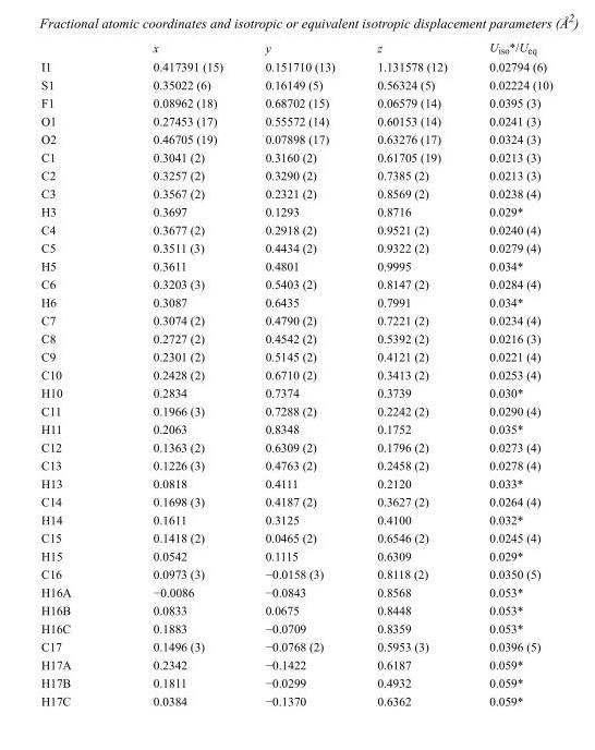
<table><thead><tr><td></td><td>x</td><td>y</td><td>z</td><td>U<sub>iso</sub>*/U<sub>eq</sub></td></tr></thead><tbody><tr><td>I1</td><td>0.417391 (15)</td><td>0.151710 (13)</td><td>1.131578 (12)</td><td>0.02794 (6)</td></tr><tr><td>S1</td><td>0.35022 (6)</td><td>0.16149 (5)</td><td>0.56324 (5)</td><td>0.02224 (10)</td></tr><tr><td>F1</td><td>0.08962 (18)</td><td>0.68702 (15)</td><td>0.06579 (14)</td><td>0.0395 (3)</td></tr><tr><td>O1</td><td>0.27453 (17)</td><td>0.55572 (14)</td><td>0.60153 (14)</td><td>0.0241 (3)</td></tr><tr><td>O2</td><td>0.46705 (19)</td><td>0.07898 (17)</td><td>0.63276 (17)</td><td>0.0324 (3)</td></tr><tr><td>C1</td><td>0.3041 (2)</td><td>0.3160 (2)</td><td>0.61705 (19)</td><td>0.0213 (3)</td></tr><tr><td>C2</td><td>0.3257 (2)</td><td>0.3290 (2)</td><td>0.7385 (2)</td><td>0.0213 (3)</td></tr><tr><td>C3</td><td>0.3567 (2)</td><td>0.2321 (2)</td><td>0.8569 (2)</td><td>0.0238 (4)</td></tr><tr><td>H3</td><td>0.3697</td><td>0.1293</td><td>0.8716</td><td>0.029*</td></tr><tr><td>C4</td><td>0.3677 (2)</td><td>0.2918 (2)</td><td>0.9521 (2)</td><td>0.0240 (4)</td></tr><tr><td>C5</td><td>0.3511 (3)</td><td>0.4434 (2)</td><td>0.9322 (2)</td><td>0.0279 (4)</td></tr><tr><td>H5</td><td>0.3611</td><td>0.4801</td><td>0.9995</td><td>0.034*</td></tr><tr><td>C6</td><td>0.3203 (3)</td><td>0.5403 (2)</td><td>0.8147 (2)</td><td>0.0284 (4)</td></tr><tr><td>H6</td><td>0.3087</td><td>0.6435</td><td>0.7991</td><td>0.034*</td></tr><tr><td>C7</td><td>0.3074 (2)</td><td>0.4790 (2)</td><td>0.7221 (2)</td><td>0.0234 (4)</td></tr><tr><td>C8</td><td>0.2727 (2)</td><td>0.4542 (2)</td><td>0.5392 (2)</td><td>0.0216 (3)</td></tr><tr><td>C9</td><td>0.2301 (2)</td><td>0.5145 (2)</td><td>0.4121 (2)</td><td>0.0221 (4)</td></tr><tr><td>C10</td><td>0.2428 (2)</td><td>0.6710 (2)</td><td>0.3413 (2)</td><td>0.0253 (4)</td></tr><tr><td>H10</td><td>0.2834</td><td>0.7374</td><td>0.3739</td><td>0.030*</td></tr><tr><td>C11</td><td>0.1966 (3)</td><td>0.7288 (2)</td><td>0.2242 (2)</td><td>0.0290 (4)</td></tr><tr><td>H11</td><td>0.2063</td><td>0.8348</td><td>0.1752</td><td>0.035*</td></tr><tr><td>C12</td><td>0.1363 (2)</td><td>0.6309 (2)</td><td>0.1796 (2)</td><td>0.0273 (4)</td></tr><tr><td>C13</td><td>0.1226 (3)</td><td>0.4763 (2)</td><td>0.2458 (2)</td><td>0.0278 (4)</td></tr><tr><td>H13</td><td>0.0818</td><td>0.4111</td><td>0.2120</td><td>0.033*</td></tr><tr><td>C14</td><td>0.1698 (3)</td><td>0.4187 (2)</td><td>0.3627 (2)</td><td>0.0264 (4)</td></tr><tr><td>H14</td><td>0.1611</td><td>0.3125</td><td>0.4100</td><td>0.032*</td></tr><tr><td>C15</td><td>0.1418 (2)</td><td>0.0465 (2)</td><td>0.6546 (2)</td><td>0.0245 (4)</td></tr><tr><td>H15</td><td>0.0542</td><td>0.1115</td><td>0.6309</td><td>0.029*</td></tr><tr><td>C16</td><td>0.0973 (3)</td><td>−0.0158 (3)</td><td>0.8118 (2)</td><td>0.0350 (5)</td></tr><tr><td>H16A</td><td>−0.0086</td><td>−0.0843</td><td>0.8568</td><td>0.053*</td></tr><tr><td>H16B</td><td>0.0833</td><td>0.0675</td><td>0.8448</td><td>0.053*</td></tr><tr><td>H16C</td><td>0.1883</td><td>−0.0709</td><td>0.8359</td><td>0.053*</td></tr><tr><td>C17</td><td>0.1496 (3)</td><td>−0.0768 (2)</td><td>0.5953 (3)</td><td>0.0396 (5)</td></tr><tr><td>H17A</td><td>0.2342</td><td>−0.1422</td><td>0.6187</td><td>0.059*</td></tr><tr><td>H17B</td><td>0.1811</td><td>−0.0299</td><td>0.4932</td><td>0.059*</td></tr><tr><td>H17C</td><td>0.0384</td><td>−0.1370</td><td>0.6362</td><td>0.059*</td></tr></tbody></table>